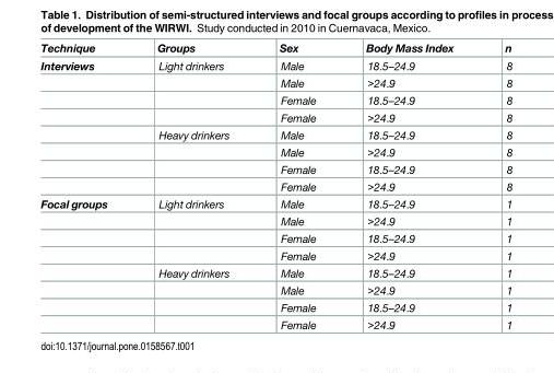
<table><thead><tr><td>Technique</td><td>Groups</td><td>Sex</td><td>Body Mass Index</td><td>n</td></tr></thead><tbody><tr><td rowspan="8">Interviews</td><td>Light drinkers</td><td>Male</td><td>18.5–24.9</td><td>8</td></tr><tr><td></td><td>Male</td><td>&gt;24.9</td><td>8</td></tr><tr><td></td><td>Female</td><td>18.5–24.9</td><td>8</td></tr><tr><td></td><td>Female</td><td>&gt;24.9</td><td>8</td></tr><tr><td>Heavy drinkers</td><td>Male</td><td>18.5–24.9</td><td>8</td></tr><tr><td></td><td>Male</td><td>&gt;24.9</td><td>8</td></tr><tr><td></td><td>Female</td><td>18.5–24.9</td><td>8</td></tr><tr><td></td><td>Female</td><td>&gt;24.9</td><td>8</td></tr><tr><td rowspan="8">Focal groups</td><td>Light drinkers</td><td>Male</td><td>18.5–24.9</td><td>1</td></tr><tr><td></td><td>Male</td><td>&gt;24.9</td><td>1</td></tr><tr><td></td><td>Female</td><td>18.5–24.9</td><td>1</td></tr><tr><td></td><td>Female</td><td>&gt;24.9</td><td>1</td></tr><tr><td>Heavy drinkers</td><td>Male</td><td>18.5–24.9</td><td>1</td></tr><tr><td></td><td>Male</td><td>&gt;24.9</td><td>1</td></tr><tr><td></td><td>Female</td><td>18.5–24.9</td><td>1</td></tr><tr><td></td><td>Female</td><td>&gt;24.9</td><td>1</td></tr></tbody></table>